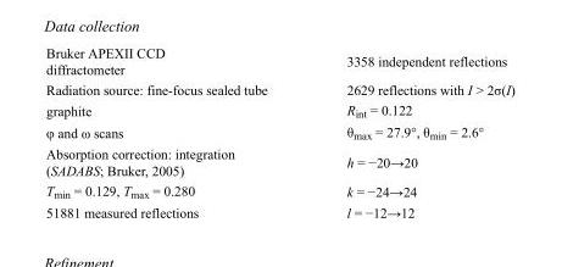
<table><tbody><tr><td>Bruker APEXII CCD diffractometer</td><td>3358 independent reflections</td></tr><tr><td>Radiation source: fine-focus sealed tube</td><td>2629 reflections with I &gt; 2σ(I)</td></tr><tr><td>graphite</td><td>R<sub>int</sub> = 0.122</td></tr><tr><td>φ and ω scans</td><td>θ<sub>max</sub> = 27.9°, θ<sub>min</sub> = 2.6°</td></tr><tr><td>Absorption correction: integration (SADABS; Bruker, 2005)</td><td>h = −20→20</td></tr><tr><td>T<sub>min</sub> = 0.129, T<sub>max</sub> = 0.280</td><td>k = −24→24</td></tr><tr><td>51881 measured reflections</td><td>l = −12→12</td></tr></tbody></table>